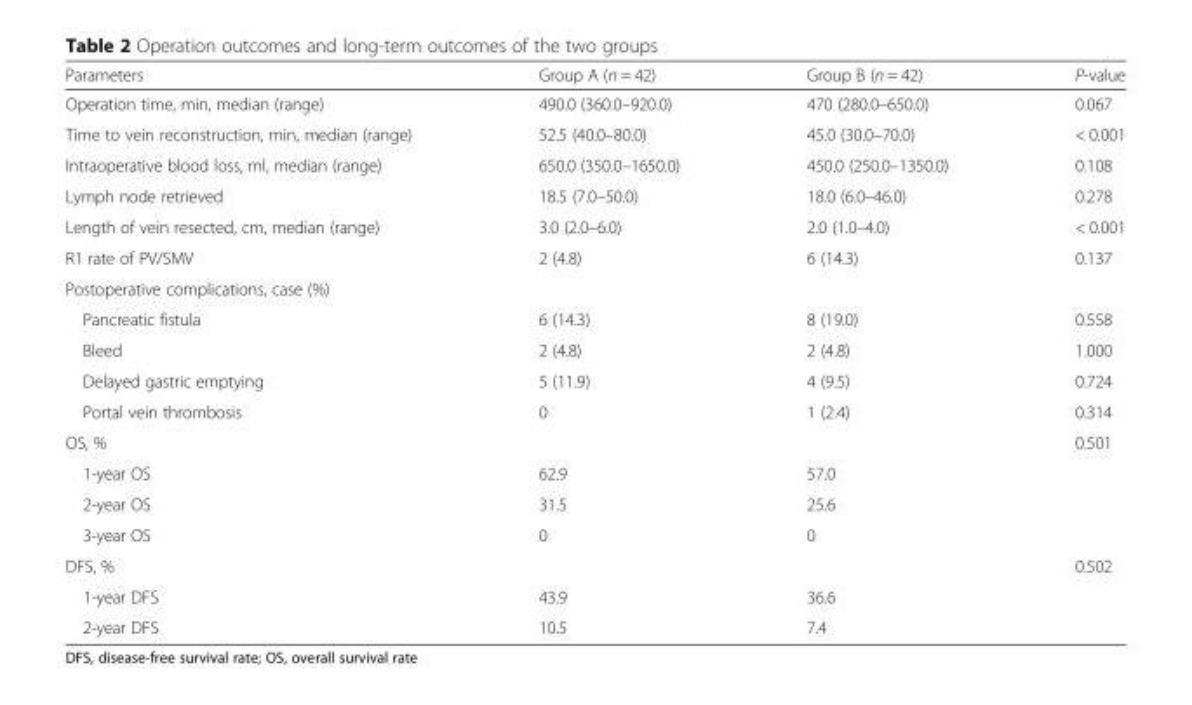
<table><thead><tr><td>Parameters</td><td>Group A (n = 42)</td><td>Group B (n = 42)</td><td>P-value</td></tr></thead><tbody><tr><td>Operation time, min, median (range)</td><td>490.0 (360.0–920.0)</td><td>470 (280.0–650.0)</td><td>0.067</td></tr><tr><td>Time to vein reconstruction, min, median (range)</td><td>52.5 (40.0–80.0)</td><td>45.0 (30.0–70.0)</td><td>&lt; 0.001</td></tr><tr><td>Intraoperative blood loss, ml, median (range)</td><td>650.0 (350.0–1650.0)</td><td>450.0 (250.0–1350.0)</td><td>0.108</td></tr><tr><td>Lymph node retrieved</td><td>18.5 (7.0–50.0)</td><td>18.0 (6.0–46.0)</td><td>0.278</td></tr><tr><td>Length of vein resected, cm, median (range)</td><td>3.0 (2.0–6.0)</td><td>2.0 (1.0–4.0)</td><td>&lt; 0.001</td></tr><tr><td>R1 rate of PV/SMV</td><td>2 (4.8)</td><td>6 (14.3)</td><td>0.137</td></tr><tr><td colspan="4">Postoperative complications, case (%)</td></tr><tr><td>Pancreatic fistula</td><td>6 (14.3)</td><td>8 (19.0)</td><td>0.558</td></tr><tr><td>Bleed</td><td>2 (4.8)</td><td>2 (4.8)</td><td>1.000</td></tr><tr><td>Delayed gastric emptying</td><td>5 (11.9)</td><td>4 (9.5)</td><td>0.724</td></tr><tr><td>Portal vein thrombosis</td><td>0</td><td>1 (2.4)</td><td>0.314</td></tr><tr><td>OS, %</td><td></td><td></td><td>0.501</td></tr><tr><td>1-year OS</td><td>62.9</td><td>57.0</td><td></td></tr><tr><td>2-year OS</td><td>31.5</td><td>25.6</td><td></td></tr><tr><td>3-year OS</td><td>0</td><td>0</td><td></td></tr><tr><td>DFS, %</td><td></td><td></td><td>0.502</td></tr><tr><td>1-year DFS</td><td>43.9</td><td>36.6</td><td></td></tr><tr><td>2-year DFS</td><td>10.5</td><td>7.4</td><td></td></tr></tbody></table>